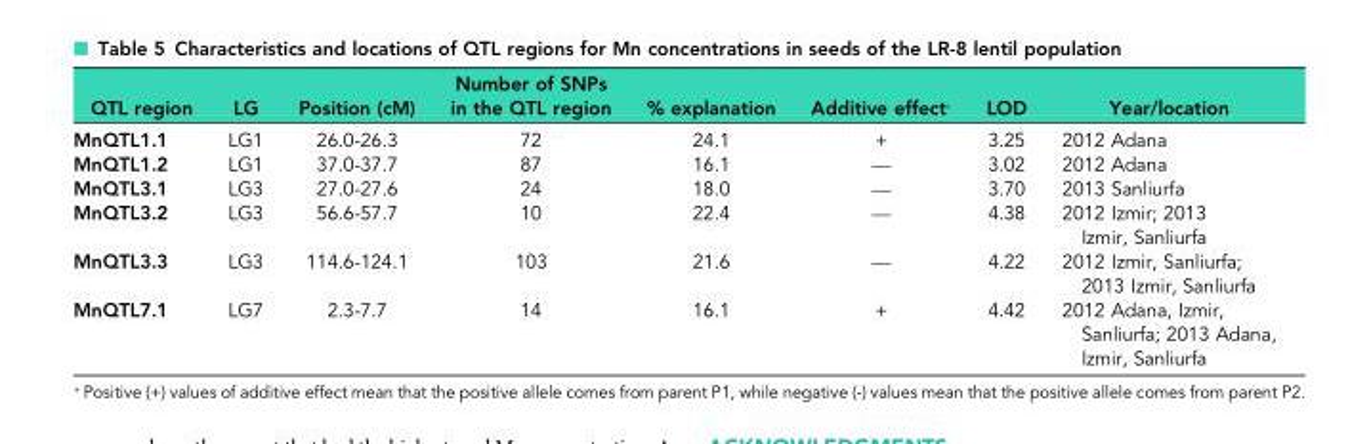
<table><thead><tr><td>QTL region</td><td>LG</td><td>Position (cM)</td><td>Number of SNPs in the QTL region</td><td>% explanation</td><td>Additive effect*</td><td>LOD</td><td>Year/location</td></tr></thead><tbody><tr><td>MnQTL1.1</td><td>LG1</td><td>26.0-26.3</td><td>72</td><td>24.1</td><td>+</td><td>3.25</td><td>2012 Adana</td></tr><tr><td>MnQTL1.2</td><td>LG1</td><td>37.0-37.7</td><td>87</td><td>16.1</td><td>—</td><td>3.02</td><td>2012 Adana</td></tr><tr><td>MnQTL3.1</td><td>LG3</td><td>27.0-27.6</td><td>24</td><td>18.0</td><td>—</td><td>3.70</td><td>2013 Sanliurfa</td></tr><tr><td>MnQTL3.2</td><td>LG3</td><td>56.6-57.7</td><td>10</td><td>22.4</td><td>—</td><td>4.38</td><td>2012 Izmir; 2013 Izmir, Sanliurfa</td></tr><tr><td>MnQTL3.3</td><td>LG3</td><td>114.6-124.1</td><td>103</td><td>21.6</td><td>—</td><td>4.22</td><td>2012 Izmir, Sanliurfa; 2013 Izmir, Sanliurfa</td></tr><tr><td>MnQTL7.1</td><td>LG7</td><td>2.3-7.7</td><td>14</td><td>16.1</td><td>+</td><td>4.42</td><td>2012 Adana, Izmir, Sanliurfa; 2013 Adana, Izmir, Sanliurfa</td></tr></tbody></table>